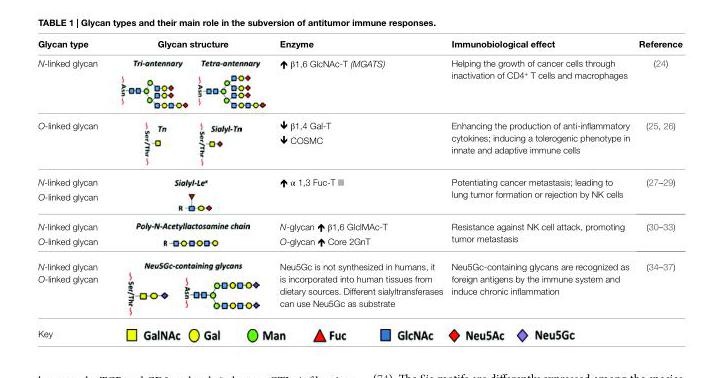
<table><thead><tr><td>Glycan type</td><td>Glycan structure</td><td>enzyme</td><td>immunobiological effect</td><td>Reference</td></tr></thead><tbody><tr><td>N-linked glycan</td><td></td><td>ã β1,6 GlcNAc-T (MGATS)</td><td>Helping the growth of cancer cells through inactivation of CD4<sup>+</sup> T cells and macrophages</td><td>(24)</td></tr><tr><td rowspan="2">O-linked glycan</td><td rowspan="2"></td><td>ä β1,4 Gal-T</td><td rowspan="2">Enhancing the production of anti-inflammatory cytokines; inducing a tolerogenic phenotype in innate and adaptive immune cells</td><td rowspan="2">(25, 26)</td></tr><tr><td>ä COSMC</td></tr><tr><td>N-linked glycan</td><td rowspan="2"></td><td rowspan="2">ã α 1,3 Fuc-T III</td><td rowspan="2">Potentiating cancer metastasis; leading to lung tumor formation or rejection by NK cells</td><td rowspan="2">(27–29)</td></tr><tr><td>O-linked glycan</td></tr><tr><td>N-linked glycan</td><td rowspan="2"></td><td>N-glycan ã β1,6 GlclMAc-T</td><td rowspan="2">Resistance against NK cell attack, promoting tumor metastasis</td><td rowspan="2">(30–33)</td></tr><tr><td>O-linked glycan</td><td>O-glycan ã Core 2GnT</td></tr><tr><td>N-linked glycan</td><td rowspan="2"></td><td rowspan="2">Neu5Gc is not synthesized in humans, it is incorporated into human tissues from dietary sources. Different sialyltransferases can use Neu5Gc as substrate</td><td rowspan="2">Neu5Gc-containing glycans are recognized as foreign antigens by the immune system and induce chronic inflammation</td><td rowspan="2">(34–37)</td></tr><tr><td>O-linked glycan</td></tr><tr><td>Key</td><td colspan="4"></td></tr></tbody></table>